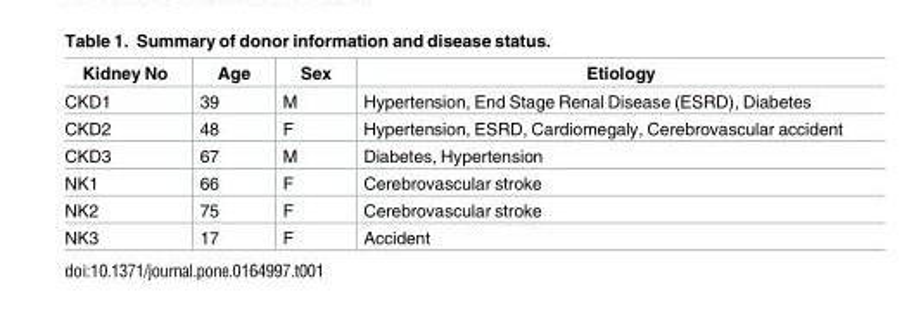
<table><thead><tr><td>Kidney No</td><td>Age</td><td>Sex</td><td>Etiology</td></tr></thead><tbody><tr><td>CKD1</td><td>39</td><td>M</td><td>Hypertension, End Stage Renal Disease (ESRD), Diabetes</td></tr><tr><td>CKD2</td><td>48</td><td>F</td><td>Hypertension, ESRD, Cardiomegaly, Cerebrovascular accident</td></tr><tr><td>CKD3</td><td>67</td><td>M</td><td>Diabetes, Hypertension</td></tr><tr><td>NK1</td><td>66</td><td>F</td><td>Cerebrovascular stroke</td></tr><tr><td>NK2</td><td>75</td><td>F</td><td>Cerebrovascular stroke</td></tr><tr><td>NK3</td><td>17</td><td>F</td><td>Accident</td></tr></tbody></table>